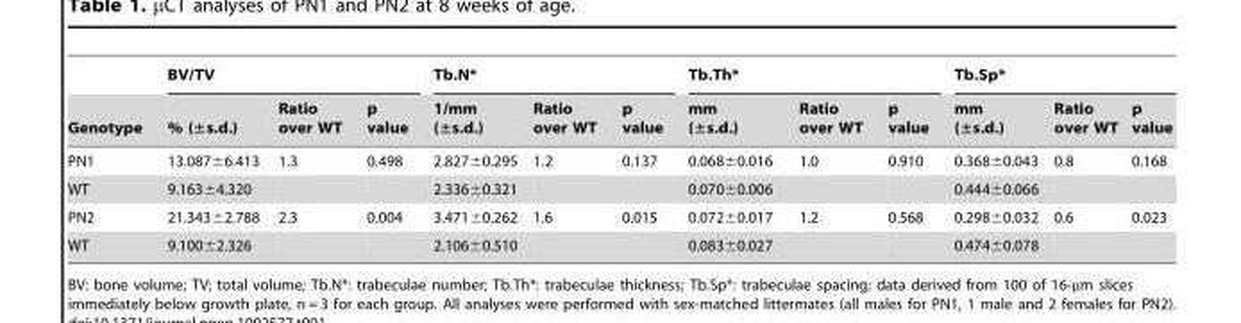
<table><thead><tr><td rowspan="2">Genotype</td><td colspan="3">BV/TV</td><td colspan="3">Tb.N*</td><td colspan="3">Tb.Th*</td><td colspan="3">Tb.Sp*</td></tr><tr><td>% (±s.d.)</td><td>Ratio over WT</td><td>p value</td><td>1/mm (±s.d.)</td><td>Ratio over WT</td><td>p value</td><td>mm (±s.d.)</td><td>Ratio over WT</td><td>p value</td><td>mm (±s.d.)</td><td>Ratio over WT</td><td>p value</td></tr></thead><tbody><tr><td>PN1</td><td>13.087±6.413</td><td>1.3</td><td>0.498</td><td>2.827±0.295</td><td>1.2</td><td>0.137</td><td>0.068±0.016</td><td>1.0</td><td>0.910</td><td>0.368±0.043</td><td>0.8</td><td>0.168</td></tr><tr><td>WT</td><td>9.163±4.320</td><td></td><td></td><td>2.336±0.321</td><td></td><td></td><td>0.070±0.006</td><td></td><td></td><td>0.444±0.066</td><td></td><td></td></tr><tr><td>PN2</td><td>21.343±2.788</td><td>2.3</td><td>0.004</td><td>3.471±0.262</td><td>1.6</td><td>0.015</td><td>0.072±0.017</td><td>1.2</td><td>0.568</td><td>0.298±0.032</td><td>0.6</td><td>0.023</td></tr><tr><td>WT</td><td>9.100±2.326</td><td></td><td></td><td>2.106±0.510</td><td></td><td></td><td>0.083±0.027</td><td></td><td></td><td>0.474±0.078</td><td></td><td></td></tr></tbody></table>